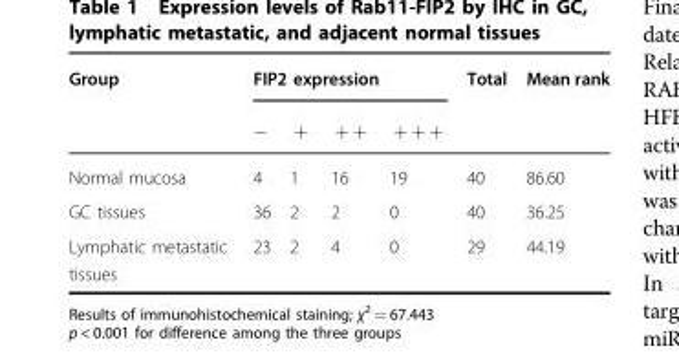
<table><thead><tr><td rowspan="2">Group</td><td colspan="4">FIP2 expression</td><td rowspan="2">Total</td><td rowspan="2">Mean rank</td></tr><tr><td>−</td><td>+</td><td>+ +</td><td>+ + +</td></tr></thead><tbody><tr><td>Normal mucosa</td><td>4</td><td>1</td><td>16</td><td>19</td><td>40</td><td>86.60</td></tr><tr><td>GC tissues</td><td>36</td><td>2</td><td>2</td><td>0</td><td>40</td><td>36.25</td></tr><tr><td>Lymphatic metastatic tissues</td><td>23</td><td>2</td><td>4</td><td>0</td><td>29</td><td>44.19</td></tr></tbody></table>